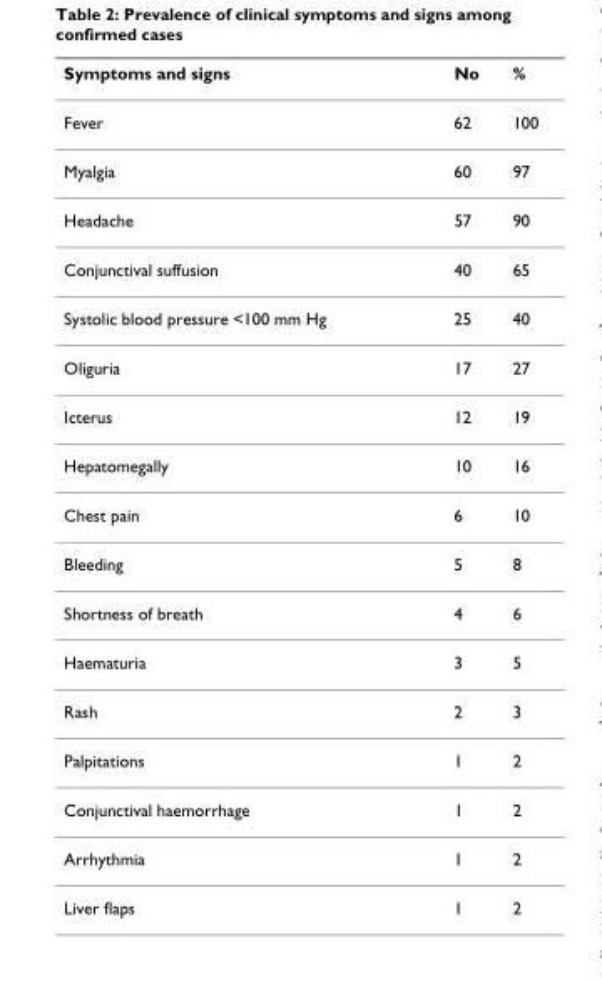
<table><thead><tr><td>Symptoms and signs</td><td>No</td><td>%</td></tr></thead><tbody><tr><td>Fever</td><td>62</td><td>100</td></tr><tr><td>Myalgia</td><td>60</td><td>97</td></tr><tr><td>Headache</td><td>57</td><td>90</td></tr><tr><td>Conjunctival suffusion</td><td>40</td><td>65</td></tr><tr><td>Systolic blood pressure &lt;100 mm Hg</td><td>25</td><td>40</td></tr><tr><td>Oliguria</td><td>17</td><td>27</td></tr><tr><td>Icterus</td><td>12</td><td>19</td></tr><tr><td>Hepatomegally</td><td>10</td><td>16</td></tr><tr><td>Chest pain</td><td>6</td><td>10</td></tr><tr><td>Bleeding</td><td>5</td><td>8</td></tr><tr><td>Shortness of breath</td><td>4</td><td>6</td></tr><tr><td>Haematuria</td><td>3</td><td>5</td></tr><tr><td>Rash</td><td>2</td><td>3</td></tr><tr><td>Palpitations</td><td>1</td><td>2</td></tr><tr><td>Conjunctival haemorrhage</td><td>1</td><td>2</td></tr><tr><td>Arrhythmia</td><td>1</td><td>2</td></tr><tr><td>Liver flaps</td><td>1</td><td>2</td></tr></tbody></table>